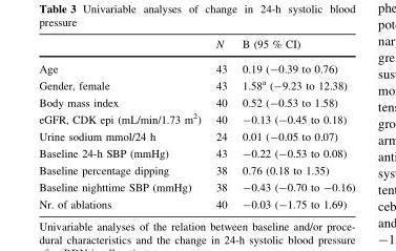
<table><thead><tr><td></td><td>N</td><td>B (95 % CI)</td></tr></thead><tbody><tr><td>Age</td><td>43</td><td>0.19 (-0.39 to 0.76)</td></tr><tr><td>Gender, female</td><td>43</td><td>1.58<sup>a</sup> (-9.23 to 12.38)</td></tr><tr><td>Body mass index</td><td>40</td><td>0.52 (-0.53 to 1.58)</td></tr><tr><td>eGFR, CDK epi (mL/min/1.73 m<sup>2</sup>)</td><td>40</td><td>-0.13 (-0.45 to 0.18)</td></tr><tr><td>Urine sodium mmol/24 h</td><td>24</td><td>0.01 (-0.05 to 0.07)</td></tr><tr><td>Baseline 24-h SBP (mmHg)</td><td>43</td><td>-0.22 (-0.53 to 0.08)</td></tr><tr><td>Baseline percentage dipping</td><td>38</td><td>0.76 (0.18 to 1.35)</td></tr><tr><td>Baseline nighttime SBP (mmHg)</td><td>38</td><td>-0.43 (-0.70 to -0.16)</td></tr><tr><td>Nr. of ablations</td><td>40</td><td>-0.03 (-1.75 to 1.69)</td></tr></tbody></table>